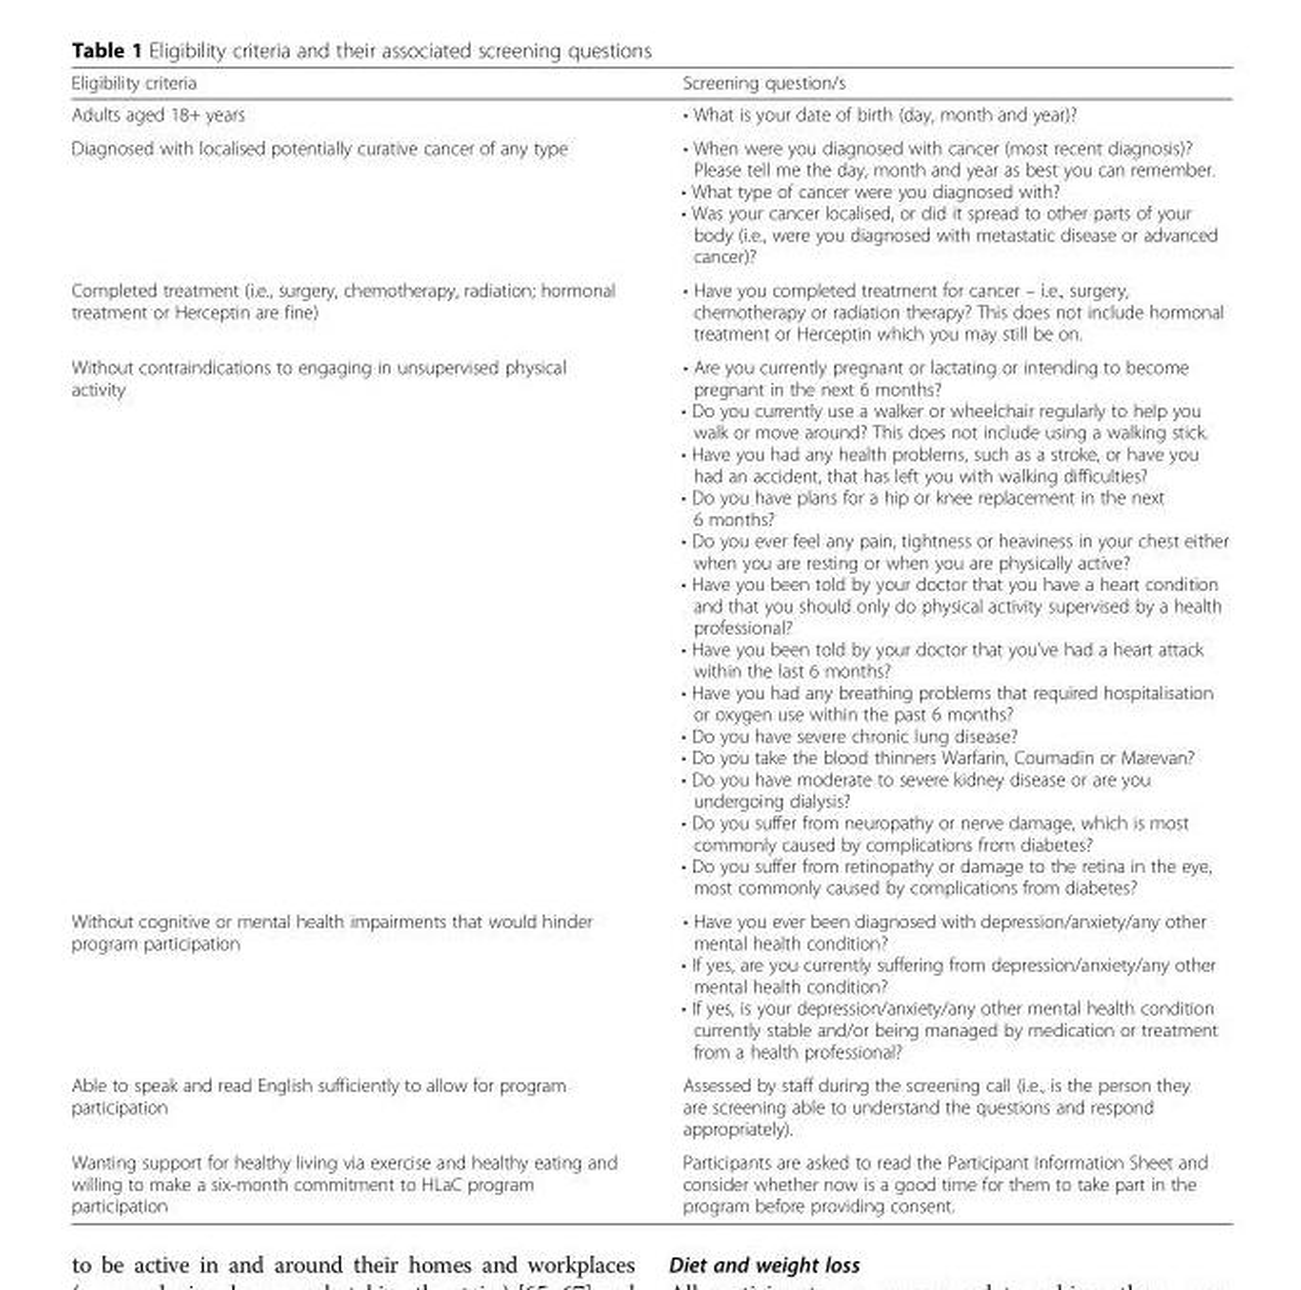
<table><thead><tr><td>Eligibility criteria</td><td>Screening question/s</td></tr></thead><tbody><tr><td>Adults aged 18+ years</td><td>• What is your date of birth (day, month and year)?</td></tr><tr><td>Diagnosed with localised potentially curative cancer of any type</td><td>• When were you diagnosed with cancer (most recent diagnosis)? Please tell me the day, month and year as best you can remember. • What type of cancer were you diagnosed with? • Was your cancer localised, or did it spread to other parts of your body (i.e., were you diagnosed with metastatic disease or advanced cancer)?</td></tr><tr><td>Completed treatment (i.e., surgery, chemotherapy, radiation; hormonal treatment or Herceptin are fine)</td><td>• Have you completed treatment for cancer – i.e., surgery, chemotherapy or radiation therapy? This does not include hormonal treatment or Herceptin which you may still be on.</td></tr><tr><td>Without contraindications to engaging in unsupervised physical activity</td><td>• Are you currently pregnant or lactating or intending to become pregnant in the next 6 months? • Do you currently use a walker or wheelchair regularly to help you walk or move around? This does not include using a walking stick. • Have you had any health problems, such as a stroke, or have you had an accident, that has left you with walking difficulties? • Do you have plans for a hip or knee replacement in the next 6 months? • Do you ever feel any pain, tightness or heaviness in your chest either when you are resting or when you are physically active? • Have you been told by your doctor that you have a heart condition and that you should only do physical activity supervised by a health professional? • Have you been told by your doctor that you’ve had a heart attack within the last 6 months? • Have you had any breathing problems that required hospitalisation or oxygen use within the past 6 months? • Do you have severe chronic lung disease? • Do you take the blood thinners Warfarin, Coumadin or Marevan? • Do you have moderate to severe kidney disease or are you undergoing dialysis? • Do you suffer from neuropathy or nerve damage, which is most commonly caused by complications from diabetes? • Do you suffer from retinopathy or damage to the retina in the eye, most commonly caused by complications from diabetes?</td></tr><tr><td>Without cognitive or mental health impairments that would hinder program participation</td><td>• Have you ever been diagnosed with depression/anxiety/any other mental health condition? • If yes, are you currently suffering from depression/anxiety/any other mental health condition? • If yes, is your depression/anxiety/any other mental health condition currently stable and/or being managed by medication or treatment from a health professional?</td></tr><tr><td>Able to speak and read English sufficiently to allow for program participation</td><td>Assessed by staff during the screening call (i.e., is the person they are screening able to understand the questions and respond appropriately).</td></tr><tr><td>Wanting support for healthy living via exercise and healthy eating and willing to make a six-month commitment to HLaC program participation</td><td>Participants are asked to read the Participant Information Sheet and consider whether now is a good time for them to take part in the program before providing consent.</td></tr></tbody></table>